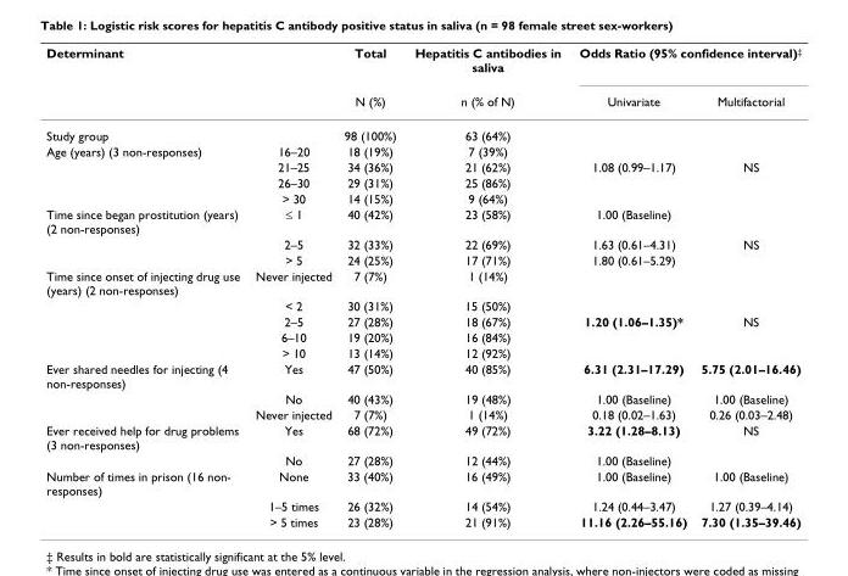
<table><thead><tr><td rowspan="2">Determinant</td><td rowspan="2"></td><td rowspan="2">Total N (%)</td><td rowspan="2">Hepatitis C antibodies in saliva n (% of N)</td><td colspan="2">Odds Ratio (95% confidence interval)<sup>‡</sup></td></tr><tr><td>Univariate</td><td>Multifactorial</td></tr></thead><tbody><tr><td>Study group</td><td></td><td>98 (100%)</td><td>63 (64%)</td><td></td><td></td></tr><tr><td rowspan="4">Age (years) (3 non-responses)</td><td>16–20</td><td>18 (19%)</td><td>7 (39%)</td><td></td><td></td></tr><tr><td>21–25</td><td>34 (36%)</td><td>21 (62%)</td><td>1.08 (0.99–1.17)</td><td>NS</td></tr><tr><td>26–30</td><td>29 (31%)</td><td>25 (86%)</td><td></td><td></td></tr><tr><td>&gt; 30</td><td>14 (15%)</td><td>9 (64%)</td><td></td><td></td></tr><tr><td rowspan="3">Time since began prostitution (years) (2 non-responses)</td><td>≤ 1</td><td>40 (42%)</td><td>23 (58%)</td><td>1.00 (Baseline)</td><td></td></tr><tr><td>2–5</td><td>32 (33%)</td><td>22 (69%)</td><td>1.63 (0.61–4.31)</td><td>NS</td></tr><tr><td>&gt; 5</td><td>24 (25%)</td><td>17 (71%)</td><td>1.80 (0.61–5.29)</td><td></td></tr><tr><td rowspan="5">Time since onset of injecting drug use (years) (2 non-responses)</td><td>Never injected</td><td>7 (7%)</td><td>1 (14%)</td><td></td><td></td></tr><tr><td>&lt; 2</td><td>30 (31%)</td><td>15 (50%)</td><td></td><td></td></tr><tr><td>2–5</td><td>27 (28%)</td><td>18 (67%)</td><td>1.20 (1.06–1.35)*</td><td>NS</td></tr><tr><td>6–10</td><td>19 (20%)</td><td>16 (84%)</td><td></td><td></td></tr><tr><td>&gt; 10</td><td>13 (14%)</td><td>12 (92%)</td><td></td><td></td></tr><tr><td rowspan="3">Ever shared needles for injecting (4 non-responses)</td><td>Yes</td><td>47 (50%)</td><td>40 (85%)</td><td>6.31 (2.31–17.29)</td><td>5.75 (2.01–16.46)</td></tr><tr><td>No</td><td>40 (43%)</td><td>19 (48%)</td><td>1.00 (Baseline)</td><td>1.00 (Baseline)</td></tr><tr><td>Never injected</td><td>7 (7%)</td><td>1 (14%)</td><td>0.18 (0.02–1.63)</td><td>0.26 (0.03–2.48)</td></tr><tr><td rowspan="2">Ever received help for drug problems (3 non-responses)</td><td>Yes</td><td>68 (72%)</td><td>49 (72%)</td><td>3.22 (1.28–8.13)</td><td>NS</td></tr><tr><td>No</td><td>27 (28%)</td><td>12 (44%)</td><td>1.00 (Baseline)</td><td></td></tr><tr><td rowspan="3">Number of times in prison (16 non- responses)</td><td>None</td><td>33 (40%)</td><td>16 (49%)</td><td>1.00 (Baseline)</td><td>1.00 (Baseline)</td></tr><tr><td>1–5 times</td><td>26 (32%)</td><td>14 (54%)</td><td>1.24 (0.44–3.47)</td><td>1.27 (0.39–4.14)</td></tr><tr><td>&gt; 5 times</td><td>23 (28%)</td><td>21 (91%)</td><td>11.16 (2.26–55.16)</td><td>7.30 (1.35–39.46)</td></tr></tbody></table>